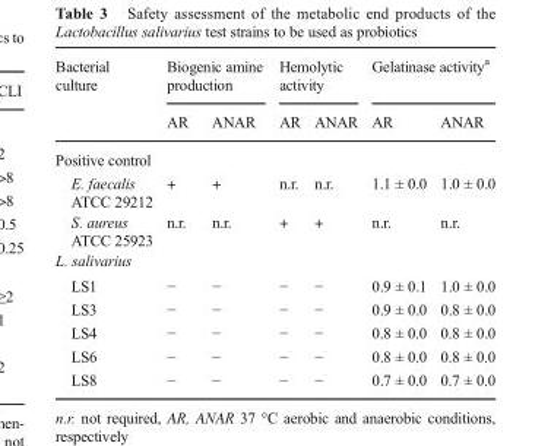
<table><thead><tr><td rowspan="2">Bacterial culture</td><td colspan="2">Biogenic amine production</td><td colspan="2">Hemolytic activity</td><td colspan="2">Gelatinase activity<sup>a</sup></td></tr><tr><td>AR</td><td>ANAR</td><td>AR</td><td>ANAR</td><td>AR</td><td>ANAR</td></tr></thead><tbody><tr><td colspan="7">Positive control</td></tr><tr><td>E. faecalis ATCC 29212</td><td>+</td><td>+</td><td>n.r.</td><td>n.r.</td><td>1.1 ± 0.0</td><td>1.0 ± 0.0</td></tr><tr><td>S. aureus ATCC 25923</td><td>n.r.</td><td>n.r.</td><td>+</td><td>+</td><td>n.r.</td><td>n.r.</td></tr><tr><td colspan="7">L. salivarius</td></tr><tr><td>LS1</td><td>−</td><td>−</td><td>−</td><td>−</td><td>0.9 ± 0.1</td><td>1.0 ± 0.0</td></tr><tr><td>LS3</td><td>−</td><td>−</td><td>−</td><td>−</td><td>0.9 ± 0.0</td><td>0.8 ± 0.0</td></tr><tr><td>LS4</td><td>−</td><td>−</td><td>−</td><td>−</td><td>0.8 ± 0.0</td><td>0.8 ± 0.0</td></tr><tr><td>LS6</td><td>−</td><td>−</td><td>−</td><td>−</td><td>0.8 ± 0.0</td><td>0.8 ± 0.0</td></tr><tr><td>LS8</td><td>−</td><td>−</td><td>−</td><td>−</td><td>0.7 ± 0.0</td><td>0.7 ± 0.0</td></tr></tbody></table>